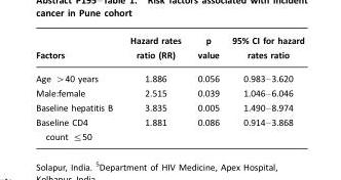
<table><thead><tr><td>Factors</td><td>Hazard rates ratio (RR)</td><td>p value</td><td>95% CI for hazard rates ratio</td></tr></thead><tbody><tr><td>Age &gt;40 years</td><td>1.886</td><td>0.056</td><td>0.983–3.620</td></tr><tr><td>Male:female</td><td>2.515</td><td>0.039</td><td>1.046–6.046</td></tr><tr><td>Baseline hepatitis B</td><td>3.835</td><td>0.005</td><td>1.490–8.974</td></tr><tr><td>Baseline CD4 count ≤50</td><td>1.881</td><td>0.086</td><td>0.914–3.868</td></tr></tbody></table>